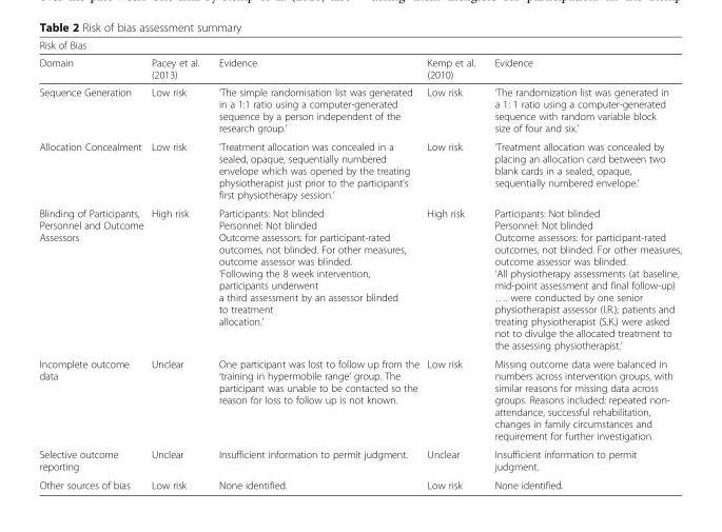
<table><thead><tr><td colspan="5">Risk of Bias</td></tr><tr><td>Domain</td><td>Pacey et al. (2013)</td><td>Evidence</td><td>Kemp et al. (2010)</td><td>Evidence</td></tr></thead><tbody><tr><td>Sequence Generation</td><td>Low risk</td><td>‘The simple randomisation list was generated in a 1:1 ratio using a computer-generated sequence by a person independent of the research group.’</td><td>Low risk</td><td>‘The randomization list was generated in a 1: 1 ratio using a computer-generated sequence with random variable block size of four and six.’</td></tr><tr><td>Allocation Concealment</td><td>Low risk</td><td>‘Treatment allocation was concealed in a sealed, opaque, sequentially numbered envelope which was opened by the treating physiotherapist just prior to the participant’s first physiotherapy session.’</td><td>Low risk</td><td>‘Treatment allocation was concealed by placing an allocation card between two blank cards in a sealed, opaque, sequentially numbered envelope.’</td></tr><tr><td>Blinding of Participants, Personnel and Outcome Assessors</td><td>High risk</td><td>Participants: Not blinded Personnel: Not blinded Outcome assessors: for participant-rated outcomes, not blinded. For other measures, outcome assessor was blinded. ‘Following the 8 week intervention, participants underwent a third assessment by an assessor blinded to treatment allocation.’</td><td>High risk</td><td>Participants: Not blinded Personnel: Not blinded Outcome assessors: for participant-rated outcomes, not blinded. For other measures, outcome assessor was blinded. ‘All physiotherapy assessments (at baseline, mid-point assessment and final follow-up) …. were conducted by one senior physiotherapist assessor (I.R.); patients and treating physiotherapist (S.K.) were asked not to divulge the allocated treatment to the assessing physiotherapist.’</td></tr><tr><td>Incomplete outcome data</td><td>Unclear</td><td>One participant was lost to follow up from the ‘training in hypermobile range’ group. The participant was unable to be contacted so the reason for loss to follow up is not known.</td><td>Low risk</td><td>Missing outcome data were balanced in numbers across intervention groups, with similar reasons for missing data across groups. Reasons included: repeated non- attendance, successful rehabilitation, changes in family circumstances and requirement for further investigation.</td></tr><tr><td>Selective outcome reporting</td><td>Unclear</td><td>Insufficient information to permit judgment.</td><td>Unclear</td><td>Insufficient information to permit judgment.</td></tr><tr><td>Other sources of bias</td><td>Low risk</td><td>None identified.</td><td>Low risk</td><td>None identified.</td></tr></tbody></table>